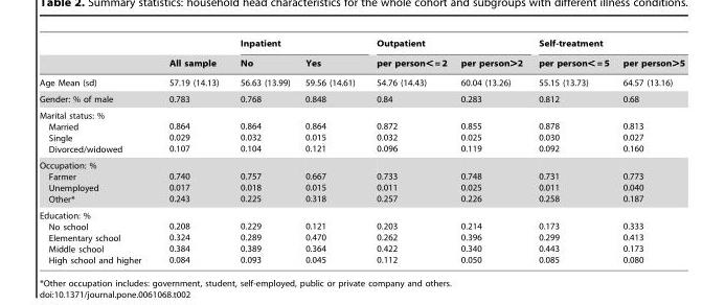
<table><thead><tr><td rowspan="2"></td><td rowspan="2">All sample</td><td colspan="2">Inpatient</td><td colspan="2">Outpatient</td><td colspan="2">Self-treatment</td></tr><tr><td>No</td><td>Yes</td><td>per person&lt; = 2</td><td>per person&gt;2</td><td>per person&lt; = 5</td><td>per person&gt;5</td></tr></thead><tbody><tr><td>Age Mean (sd)</td><td>57.19 (14.13)</td><td>56.63 (13.99)</td><td>59.56 (14.61)</td><td>54.76 (14.43)</td><td>60.04 (13.26)</td><td>55.15 (13.73)</td><td>64.57 (13.16)</td></tr><tr><td>Gender: % of male</td><td>0.783</td><td>0.768</td><td>0.848</td><td>0.84</td><td>0.283</td><td>0.812</td><td>0.68</td></tr><tr><td>Marital status: % Married Single Divorced/widowed</td><td>0.864 0.029 0.107</td><td>0.864 0.032 0.104</td><td>0.864 0.015 0.121</td><td>0.872 0.032 0.096</td><td>0.855 0.025 0.119</td><td>0.878 0.030 0.092</td><td>0.813 0.027 0.160</td></tr><tr><td>Occupation: % Farmer Unemployed Other*</td><td>0.740 0.017 0.243</td><td>0.757 0.018 0.225</td><td>0.667 0.015 0.318</td><td>0.733 0.011 0.257</td><td>0.748 0.025 0.226</td><td>0.731 0.011 0.258</td><td>0.773 0.040 0.187</td></tr><tr><td>Education: % No school Elementary school Middle school High school and higher</td><td>0.208 0.324 0.384 0.084</td><td>0.229 0.289 0.389 0.093</td><td>0.121 0.470 0.364 0.045</td><td>0.203 0.262 0.422 0.112</td><td>0.214 0.396 0.340 0.050</td><td>0.173 0.299 0.443 0.085</td><td>0.333 0.413 0.173 0.080</td></tr></tbody></table>